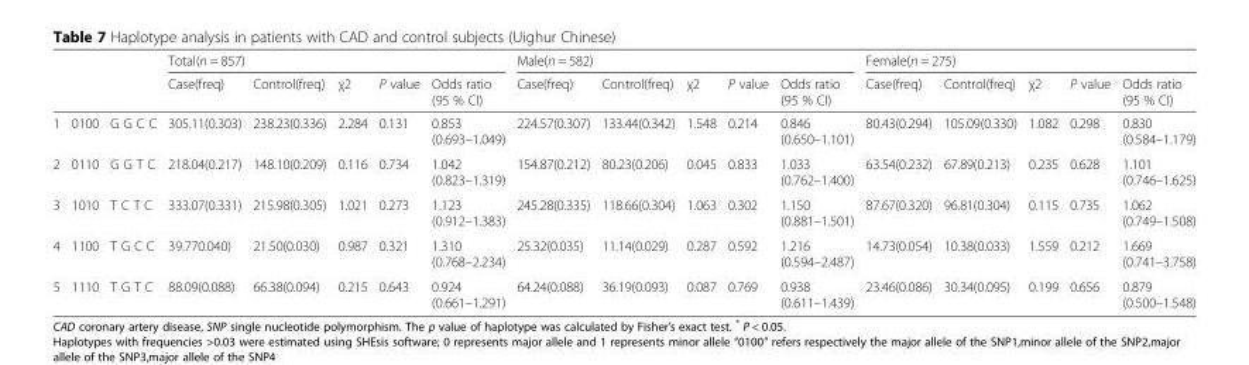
<table><thead><tr><td rowspan="2"></td><td rowspan="2"></td><td rowspan="2"></td><td colspan="5">Total(n = 857)</td><td colspan="5">Male(n = 582)</td><td colspan="5">Female(n = 275)</td></tr><tr><td>Case(freq)</td><td>Control(freq)</td><td>χ2</td><td>P value</td><td>Odds ratio (95 % CI)</td><td>Case(freq)</td><td>Control(freq)</td><td>χ2</td><td>P value</td><td>Odds ratio (95 % CI)</td><td>Case(freq)</td><td>Control(freq)</td><td>χ2</td><td>P value</td><td>Odds ratio (95 % CI)</td></tr></thead><tbody><tr><td>1</td><td>0100</td><td>G G C C</td><td>305.11(0.303)</td><td>238.23(0.336)</td><td>2.284</td><td>0.131</td><td>0.853 (0.693–1.049)</td><td>224.57(0.307)</td><td>133.44(0.342)</td><td>1.548</td><td>0.214</td><td>0.846 (0.650–1.101)</td><td>80.43(0.294)</td><td>105.09(0.330)</td><td>1.082</td><td>0.298</td><td>0.830 (0.584–1.179)</td></tr><tr><td>2</td><td>0110</td><td>G G T C</td><td>218.04(0.217)</td><td>148.10(0.209)</td><td>0.116</td><td>0.734</td><td>1.042 (0.823–1.319)</td><td>154.87(0.212)</td><td>80.23(0.206)</td><td>0.045</td><td>0.833</td><td>1.033 (0.762–1.400)</td><td>63.54(0.232)</td><td>67.89(0.213)</td><td>0.235</td><td>0.628</td><td>1.101 (0.746–1.625)</td></tr><tr><td>3</td><td>1010</td><td>T C T C</td><td>333.07(0.331)</td><td>215.98(0.305)</td><td>1.021</td><td>0.273</td><td>1.123 (0.912–1.383)</td><td>245.28(0.335)</td><td>118.66(0.304)</td><td>1.063</td><td>0.302</td><td>1.150 (0.881–1.501)</td><td>87.67(0.320)</td><td>96.81(0.304)</td><td>0.115</td><td>0.735</td><td>1.062 (0.749–1.508)</td></tr><tr><td>4</td><td>1100</td><td>T G C C</td><td>39.770.040)</td><td>21.50(0.030)</td><td>0.987</td><td>0.321</td><td>1.310 (0.768–2.234)</td><td>25.32(0.035)</td><td>11.14(0.029)</td><td>0.287</td><td>0.592</td><td>1.216 (0.594–2.487)</td><td>14.73(0.054)</td><td>10.38(0.033)</td><td>1.559</td><td>0.212</td><td>1.669 (0.741–3.758)</td></tr><tr><td>5</td><td>1110</td><td>T G T C</td><td>88.09(0.088)</td><td>66.38(0.094)</td><td>0.215</td><td>0.643</td><td>0.924 (0.661–1.291)</td><td>64.24(0.088)</td><td>36.19(0.093)</td><td>0.087</td><td>0.769</td><td>0.938 (0.611–1.439)</td><td>23.46(0.086)</td><td>30.34(0.095)</td><td>0.199</td><td>0.656</td><td>0.879 (0.500–1.548)</td></tr></tbody></table>